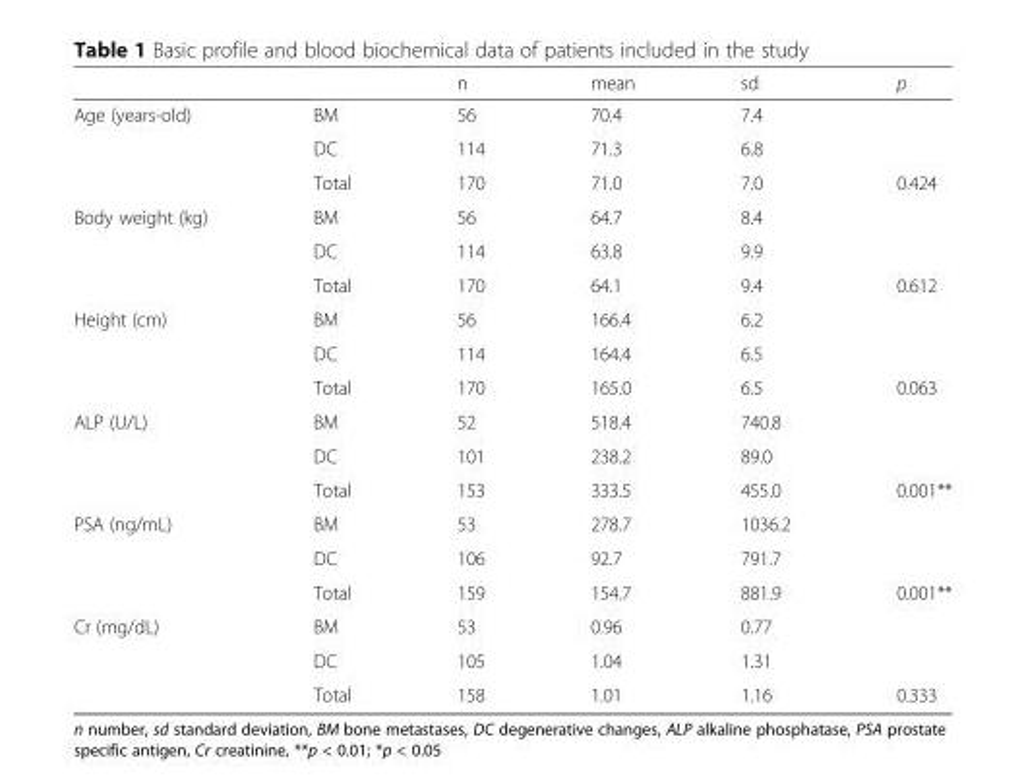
<table><thead><tr><td></td><td></td><td>n</td><td>mean</td><td>sd</td><td>p</td></tr></thead><tbody><tr><td rowspan="3">Age (years-old)</td><td>BM</td><td>56</td><td>70.4</td><td>7.4</td><td></td></tr><tr><td>DC</td><td>114</td><td>71.3</td><td>6.8</td><td></td></tr><tr><td>Total</td><td>170</td><td>71.0</td><td>7.0</td><td>0.424</td></tr><tr><td rowspan="3">Body weight (kg)</td><td>BM</td><td>56</td><td>64.7</td><td>8.4</td><td></td></tr><tr><td>DC</td><td>114</td><td>63.8</td><td>9.9</td><td></td></tr><tr><td>Total</td><td>170</td><td>64.1</td><td>9.4</td><td>0.612</td></tr><tr><td rowspan="3">Height (cm)</td><td>BM</td><td>56</td><td>166.4</td><td>6.2</td><td></td></tr><tr><td>DC</td><td>114</td><td>164.4</td><td>6.5</td><td></td></tr><tr><td>Total</td><td>170</td><td>165.0</td><td>6.5</td><td>0.063</td></tr><tr><td rowspan="3">ALP (U/L)</td><td>BM</td><td>52</td><td>518.4</td><td>740.8</td><td></td></tr><tr><td>DC</td><td>101</td><td>238.2</td><td>89.0</td><td></td></tr><tr><td>Total</td><td>153</td><td>333.5</td><td>455.0</td><td>0.001**</td></tr><tr><td rowspan="3">PSA (ng/mL)</td><td>BM</td><td>53</td><td>278.7</td><td>1036.2</td><td></td></tr><tr><td>DC</td><td>106</td><td>92.7</td><td>791.7</td><td></td></tr><tr><td>Total</td><td>159</td><td>154.7</td><td>881.9</td><td>0.001**</td></tr><tr><td rowspan="3">Cr (mg/dL)</td><td>BM</td><td>53</td><td>0.96</td><td>0.77</td><td></td></tr><tr><td>DC</td><td>105</td><td>1.04</td><td>1.31</td><td></td></tr><tr><td>Total</td><td>158</td><td>1.01</td><td>1.16</td><td>0.333</td></tr></tbody></table>